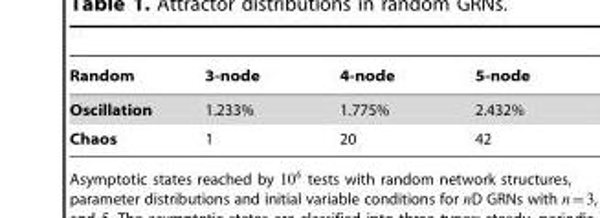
<table><thead><tr><td>Random</td><td>3-node</td><td>4-node</td><td>5-node</td></tr></thead><tbody><tr><td>Oscillation</td><td>1.233%</td><td>1.775%</td><td>2.432%</td></tr><tr><td>Chaos</td><td>1</td><td>20</td><td>42</td></tr></tbody></table>